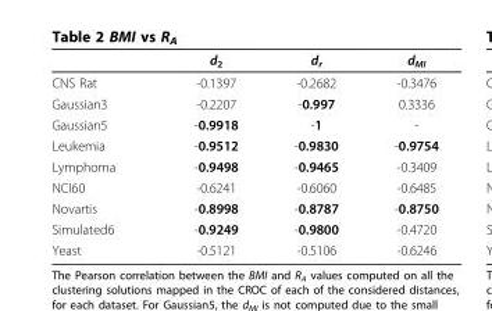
<table><thead><tr><td></td><td>d<sub>2</sub></td><td>d<sub>r</sub></td><td>d<sub>MI</sub></td></tr></thead><tbody><tr><td>CNS Rat</td><td>-0.1397</td><td>-0.2682</td><td>-0.3476</td></tr><tr><td>Gaussian3</td><td>-0.2207</td><td>-0.997</td><td>0.3336</td></tr><tr><td>Gaussian5</td><td>-0.9918</td><td>-1</td><td>-</td></tr><tr><td>Leukemia</td><td>-0.9512</td><td>-0.9830</td><td>-0.9754</td></tr><tr><td>Lymphoma</td><td>-0.9498</td><td>-0.9465</td><td>-0.3409</td></tr><tr><td>NCI60</td><td>-0.6241</td><td>-0.6060</td><td>-0.6485</td></tr><tr><td>Novartis</td><td>-0.8998</td><td>-0.8787</td><td>-0.8750</td></tr><tr><td>Simulated6</td><td>-0.9249</td><td>-0.9800</td><td>-0.4720</td></tr><tr><td>Yeast</td><td>-0.5121</td><td>-0.5106</td><td>-0.6246</td></tr></tbody></table>